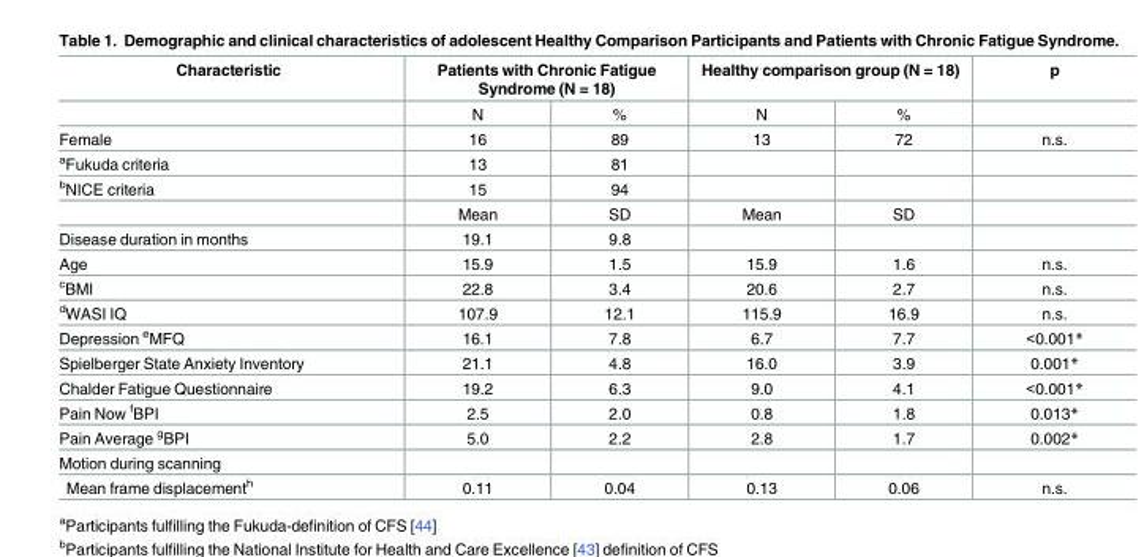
<table><thead><tr><td rowspan="2">Characteristic</td><td colspan="2">Patients with Chronic Fatigue Syndrome (N = 18)</td><td colspan="2">Healthy comparison group (N = 18)</td><td rowspan="2">p</td></tr><tr><td>N</td><td>%</td><td>N</td><td>%</td></tr></thead><tbody><tr><td>Female</td><td>16</td><td>89</td><td>13</td><td>72</td><td>n.s.</td></tr><tr><td><sup>a</sup>Fukuda criteria</td><td>13</td><td>81</td><td></td><td></td><td></td></tr><tr><td rowspan="2"><sup>b</sup>NICE criteria</td><td>15</td><td>94</td><td></td><td></td><td></td></tr><tr><td>Mean</td><td>SD</td><td>Mean</td><td>SD</td><td></td></tr><tr><td>Disease duration in months</td><td>19.1</td><td>9.8</td><td></td><td></td><td></td></tr><tr><td>Age</td><td>15.9</td><td>1.5</td><td>15.9</td><td>1.6</td><td>n.s.</td></tr><tr><td><sup>c</sup>BMI</td><td>22.8</td><td>3.4</td><td>20.6</td><td>2.7</td><td>n.s.</td></tr><tr><td><sup>d</sup>WASI IQ</td><td>107.9</td><td>12.1</td><td>115.9</td><td>16.9</td><td>n.s.</td></tr><tr><td>Depression <sup>e</sup>MFQ</td><td>16.1</td><td>7.8</td><td>6.7</td><td>7.7</td><td>&lt;0.001*</td></tr><tr><td>Spielberger State Anxiety Inventory</td><td>21.1</td><td>4.8</td><td>16.0</td><td>3.9</td><td>0.001*</td></tr><tr><td>Chalder Fatigue Questionnaire</td><td>19.2</td><td>6.3</td><td>9.0</td><td>4.1</td><td>&lt;0.001*</td></tr><tr><td>Pain Now <sup>f</sup>BPI</td><td>2.5</td><td>2.0</td><td>0.8</td><td>1.8</td><td>0.013*</td></tr><tr><td>Pain Average <sup>g</sup>BPI</td><td>5.0</td><td>2.2</td><td>2.8</td><td>1.7</td><td>0.002*</td></tr><tr><td colspan="6">Motion during scanning</td></tr><tr><td>Mean frame displacement<sup>h</sup></td><td>0.11</td><td>0.04</td><td>0.13</td><td>0.06</td><td>n.s.</td></tr></tbody></table>